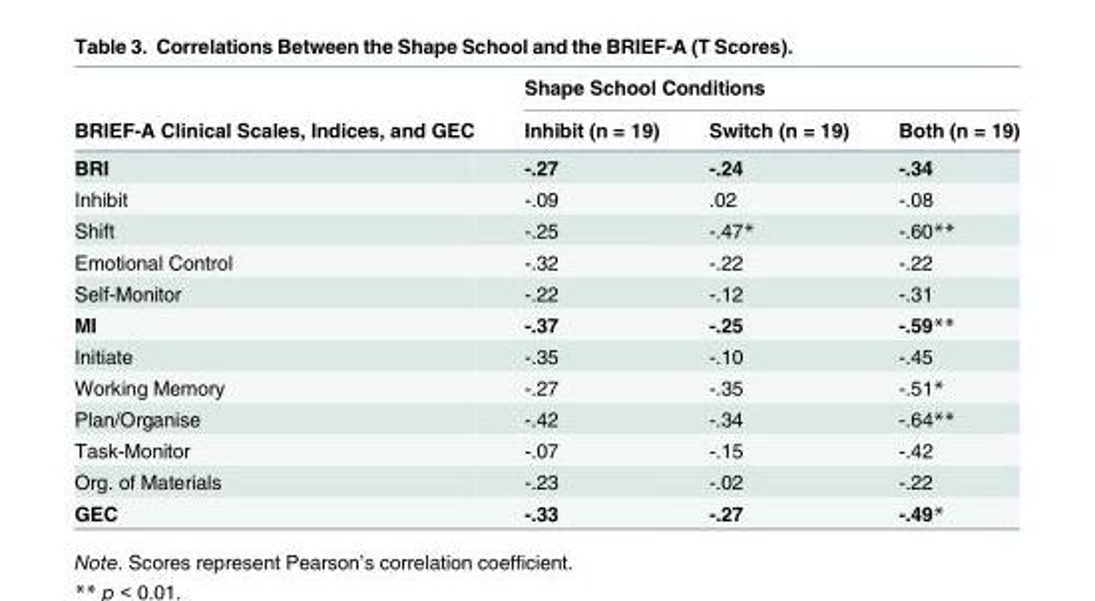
<table><thead><tr><td rowspan="2">BRIEF-A Clinical Scales, Indices, and GEC</td><td colspan="3">Shape School Conditions</td></tr><tr><td>Inhibit (n = 19)</td><td>Switch (n = 19)</td><td>Both (n = 19)</td></tr></thead><tbody><tr><td>BRI</td><td>-.27</td><td>-.24</td><td>-.34</td></tr><tr><td>Inhibit</td><td>-.09</td><td>.02</td><td>-.08</td></tr><tr><td>Shift</td><td>-.25</td><td>-.47*</td><td>-.60**</td></tr><tr><td>Emotional Control</td><td>-.32</td><td>-.22</td><td>-.22</td></tr><tr><td>Self-Monitor</td><td>-.22</td><td>-.12</td><td>-.31</td></tr><tr><td>MI</td><td>-.37</td><td>-.25</td><td>-.59**</td></tr><tr><td>Initiate</td><td>-.35</td><td>-.10</td><td>-.45</td></tr><tr><td>Working Memory</td><td>-.27</td><td>-.35</td><td>-.51*</td></tr><tr><td>Plan/Organise</td><td>-.42</td><td>-.34</td><td>-.64**</td></tr><tr><td>Task-Monitor</td><td>-.07</td><td>-.15</td><td>-.42</td></tr><tr><td>Org. of Materials</td><td>-.23</td><td>-.02</td><td>-.22</td></tr><tr><td>GEC</td><td>-.33</td><td>-.27</td><td>-.49*</td></tr></tbody></table>